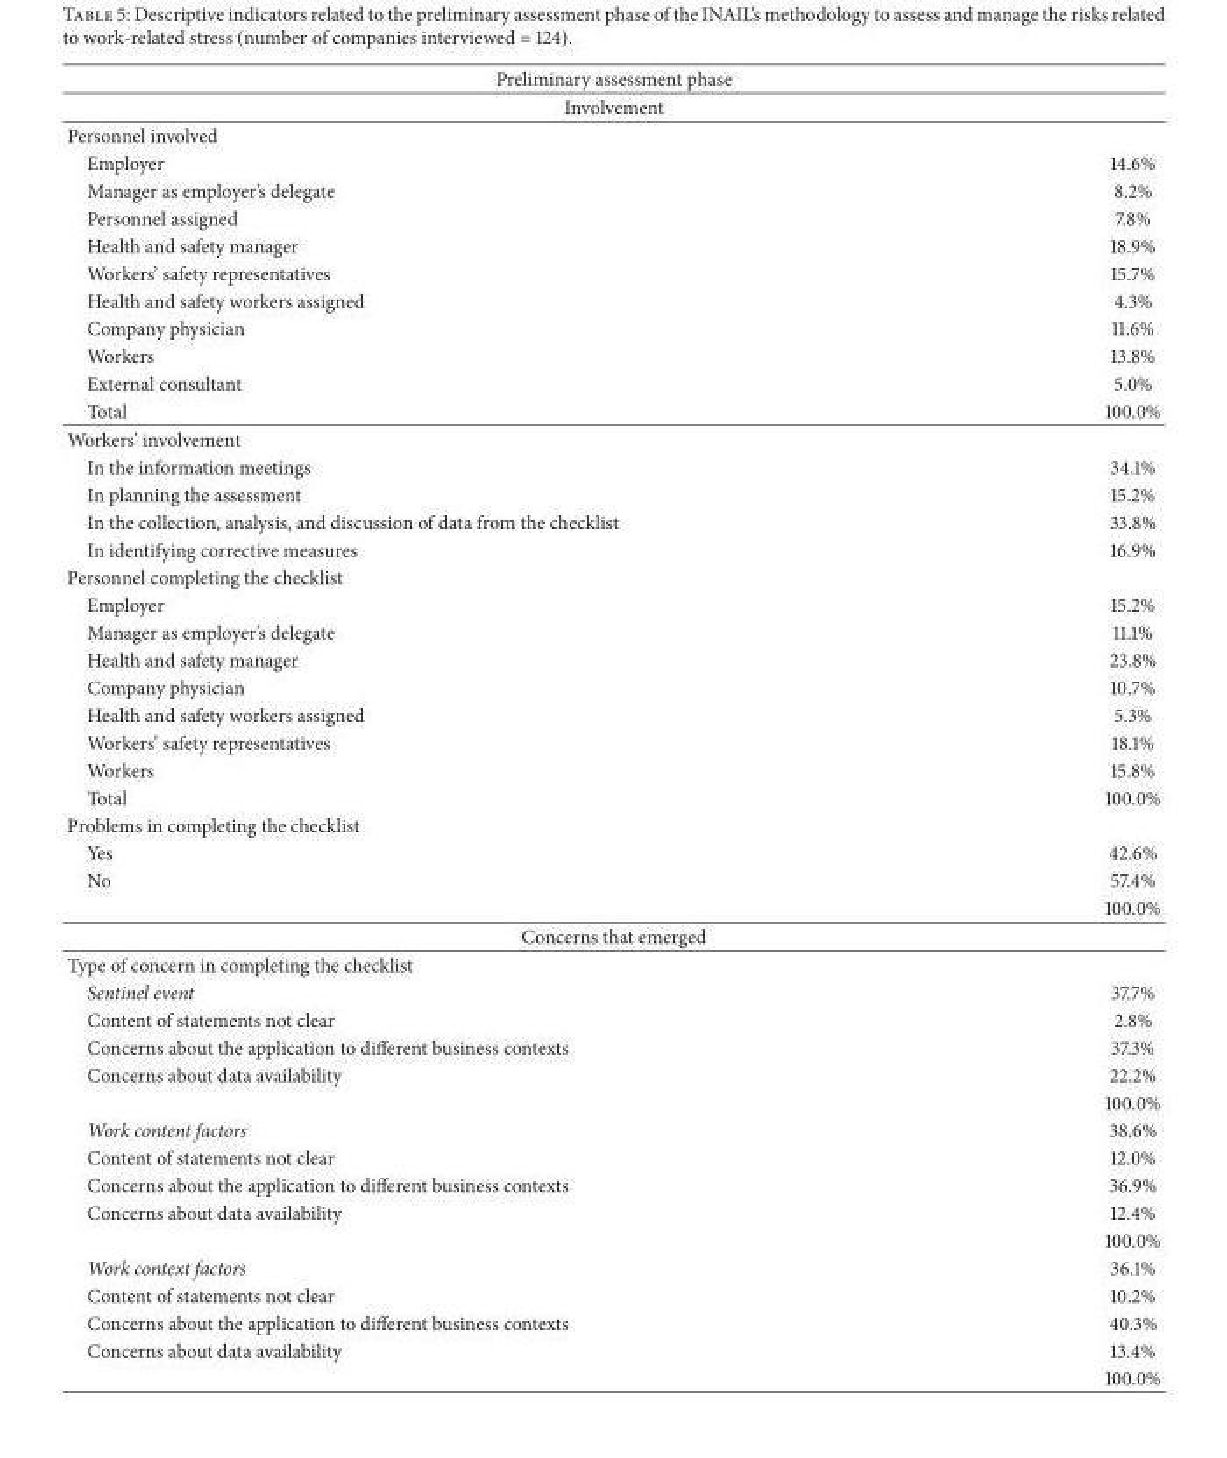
<table><thead><tr><td rowspan="2" colspan="2">Preliminary assessment phase Involvement</td></tr><tr></tr><tr><td>Personnel involved</td><td></td></tr></thead><tbody><tr><td>Employer</td><td>14.6%</td></tr><tr><td>Manager as employer’s delegate</td><td>8.2%</td></tr><tr><td>Personnel assigned</td><td>7.8%</td></tr><tr><td>Health and safety manager</td><td>18.9%</td></tr><tr><td>Workers’ safety representatives</td><td>15.7%</td></tr><tr><td>Health and safety workers assigned</td><td>4.3%</td></tr><tr><td>Company physician</td><td>11.6%</td></tr><tr><td>Workers</td><td>13.8%</td></tr><tr><td>External consultant</td><td>5.0%</td></tr><tr><td>Total</td><td>100.0%</td></tr><tr><td colspan="2">Workers’ involvement</td></tr><tr><td>In the information meetings</td><td>34.1%</td></tr><tr><td>In planning the assessment</td><td>15.2%</td></tr><tr><td>In the collection, analysis, and discussion of data from the checklist</td><td>33.8%</td></tr><tr><td>In identifying corrective measures</td><td>16.9%</td></tr><tr><td colspan="2">Personnel completing the checklist</td></tr><tr><td>Employer</td><td>15.2%</td></tr><tr><td>Manager as employer’s delegate</td><td>11.1%</td></tr><tr><td>Health and safety manager</td><td>23.8%</td></tr><tr><td>Company physician</td><td>10.7%</td></tr><tr><td>Health and safety workers assigned</td><td>5.3%</td></tr><tr><td>Workers’ safety representatives</td><td>18.1%</td></tr><tr><td>Workers</td><td>15.8%</td></tr><tr><td>Total</td><td>100.0%</td></tr><tr><td colspan="2">Problems in completing the checklist</td></tr><tr><td>Yes</td><td>42.6%</td></tr><tr><td rowspan="2">No</td><td>57.4%</td></tr><tr><td>100.0%</td></tr><tr><td colspan="2">Concerns that emerged</td></tr><tr><td colspan="2">Type of concern in completing the checklist</td></tr><tr><td>Sentinel event</td><td>37.7%</td></tr><tr><td>Content of statements not clear</td><td>2.8%</td></tr><tr><td>Concerns about the application to different business contexts</td><td>37.3%</td></tr><tr><td rowspan="2">Concerns about data availability</td><td>22.2%</td></tr><tr><td>100.0%</td></tr><tr><td>Work content factors</td><td>38.6%</td></tr><tr><td>Content of statements not clear</td><td>12.0%</td></tr><tr><td>Concerns about the application to different business contexts</td><td>36.9%</td></tr><tr><td rowspan="2">Concerns about data availability</td><td>12.4%</td></tr><tr><td>100.0%</td></tr><tr><td>Work context factors</td><td>36.1%</td></tr><tr><td>Content of statements not clear</td><td>10.2%</td></tr><tr><td>Concerns about the application to different business contexts</td><td>40.3%</td></tr><tr><td rowspan="2">Concerns about data availability</td><td>13.4%</td></tr><tr><td>100.0%</td></tr></tbody></table>